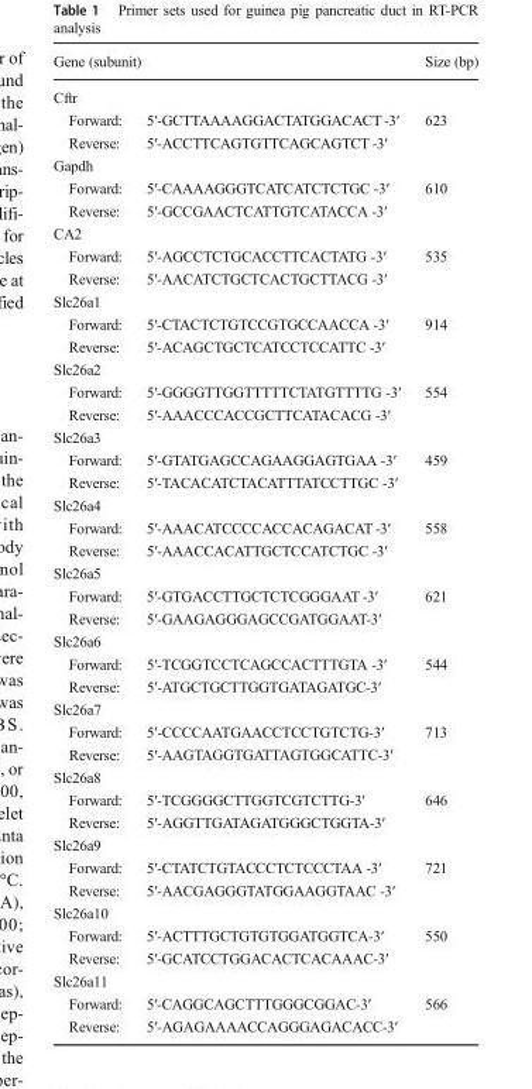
<table><thead><tr><td colspan="2">Gene (subunit)</td><td>Size (bp)</td></tr><tr><td colspan="3">Cftr</td></tr><tr><td>Forward:</td><td>5′-GCTTAAAAGGACTATGGACACT -3′</td><td>623</td></tr></thead><tbody><tr><td>Reverse:</td><td>5′-ACCTTCAGTGTTCAGCAGTCT -3′</td><td></td></tr><tr><td colspan="3">Gapdh</td></tr><tr><td>Forward:</td><td>5′-CAAAAGGGTCATCATCTCTGC -3′</td><td>610</td></tr><tr><td>Reverse:</td><td>5′-GCCGAACTCATTGTCATACCA -3′</td><td></td></tr><tr><td colspan="3">CA2</td></tr><tr><td>Forward:</td><td>5′-AGCCTCTGCACCTTCACTATG -3′</td><td>535</td></tr><tr><td>Reverse:</td><td>5′-AACATCTGCTCACTGCTTACG -3′</td><td></td></tr><tr><td colspan="3">Slc26a1</td></tr><tr><td>Forward:</td><td>5′-CTACTCTGTCCGTGCCAACCA -3′</td><td>914</td></tr><tr><td>Reverse:</td><td>5′-ACAGCTGCTCATCCTCCATTC -3′</td><td></td></tr><tr><td colspan="3">Slc26a2</td></tr><tr><td>Forward:</td><td>5′-GGGGTTGGTTTTTCTATGTTTTG -3′</td><td>554</td></tr><tr><td>Reverse:</td><td>5′-AAACCCACCGCTTCATACACG -3′</td><td></td></tr><tr><td colspan="3">Slc26a3</td></tr><tr><td>Forward:</td><td>5′-GTATGAGCCAGAAGGAGTGAA -3′</td><td>459</td></tr><tr><td>Reverse:</td><td>5′-TACACATCTACATTTATCCTTGC -3′</td><td></td></tr><tr><td colspan="3">Slc26a4</td></tr><tr><td>Forward:</td><td>5′-AAACATCCCCACCACAGACAT -3′</td><td>558</td></tr><tr><td>Reverse:</td><td>5′-AAACCACATTGCTCCATCTGC -3′</td><td></td></tr><tr><td colspan="3">Slc26a5</td></tr><tr><td>Forward:</td><td>5′-GTGACCTTGCTCTCGGGAAT -3′</td><td>621</td></tr><tr><td>Reverse:</td><td>5′-GAAGAGGGAGCCGATGGAAT-3′</td><td></td></tr><tr><td colspan="3">Slc26a6</td></tr><tr><td>Forward:</td><td>5′-TCGGTCCTCAGCCACTTTGTA -3′</td><td>544</td></tr><tr><td>Reverse:</td><td>5′-ATGCTGCTTGGTGATAGATGC-3′</td><td></td></tr><tr><td colspan="3">Slc26a7</td></tr><tr><td>Forward:</td><td>5′-CCCCAATGAACCTCCTGTCTG-3′</td><td>713</td></tr><tr><td>Reverse:</td><td>5′-AAGTAGGTGATTAGTGGCATTC-3′</td><td></td></tr><tr><td colspan="3">Slc26a8</td></tr><tr><td>Forward:</td><td>5′-TCGGGGCTTGGTCGTCTTG-3′</td><td>646</td></tr><tr><td>Reverse:</td><td>5′-AGGTTGATAGATGGGCTGGTA-3′</td><td></td></tr><tr><td colspan="3">Slc26a9</td></tr><tr><td>Forward:</td><td>5′-CTATCTGTACCCTCTCCCTAA -3′</td><td>721</td></tr><tr><td>Reverse:</td><td>5′-AACGAGGGTATGGAAGGTAAC -3′</td><td></td></tr><tr><td colspan="3">Slc26a10</td></tr><tr><td>Forward:</td><td>5′-ACTTTGCTGTGTGGATGGTCA-3′</td><td>550</td></tr><tr><td>Reverse:</td><td>5′-GCATCCTGGACACTCACAAAC-3′</td><td></td></tr><tr><td colspan="3">Slc26a11</td></tr><tr><td>Forward:</td><td>5′-CAGGCAGCTTTGGGCGGAC-3′</td><td>566</td></tr><tr><td>Reverse:</td><td>5′-AGAGAAAACCAGGGAGACACC-3′</td><td></td></tr></tbody></table>